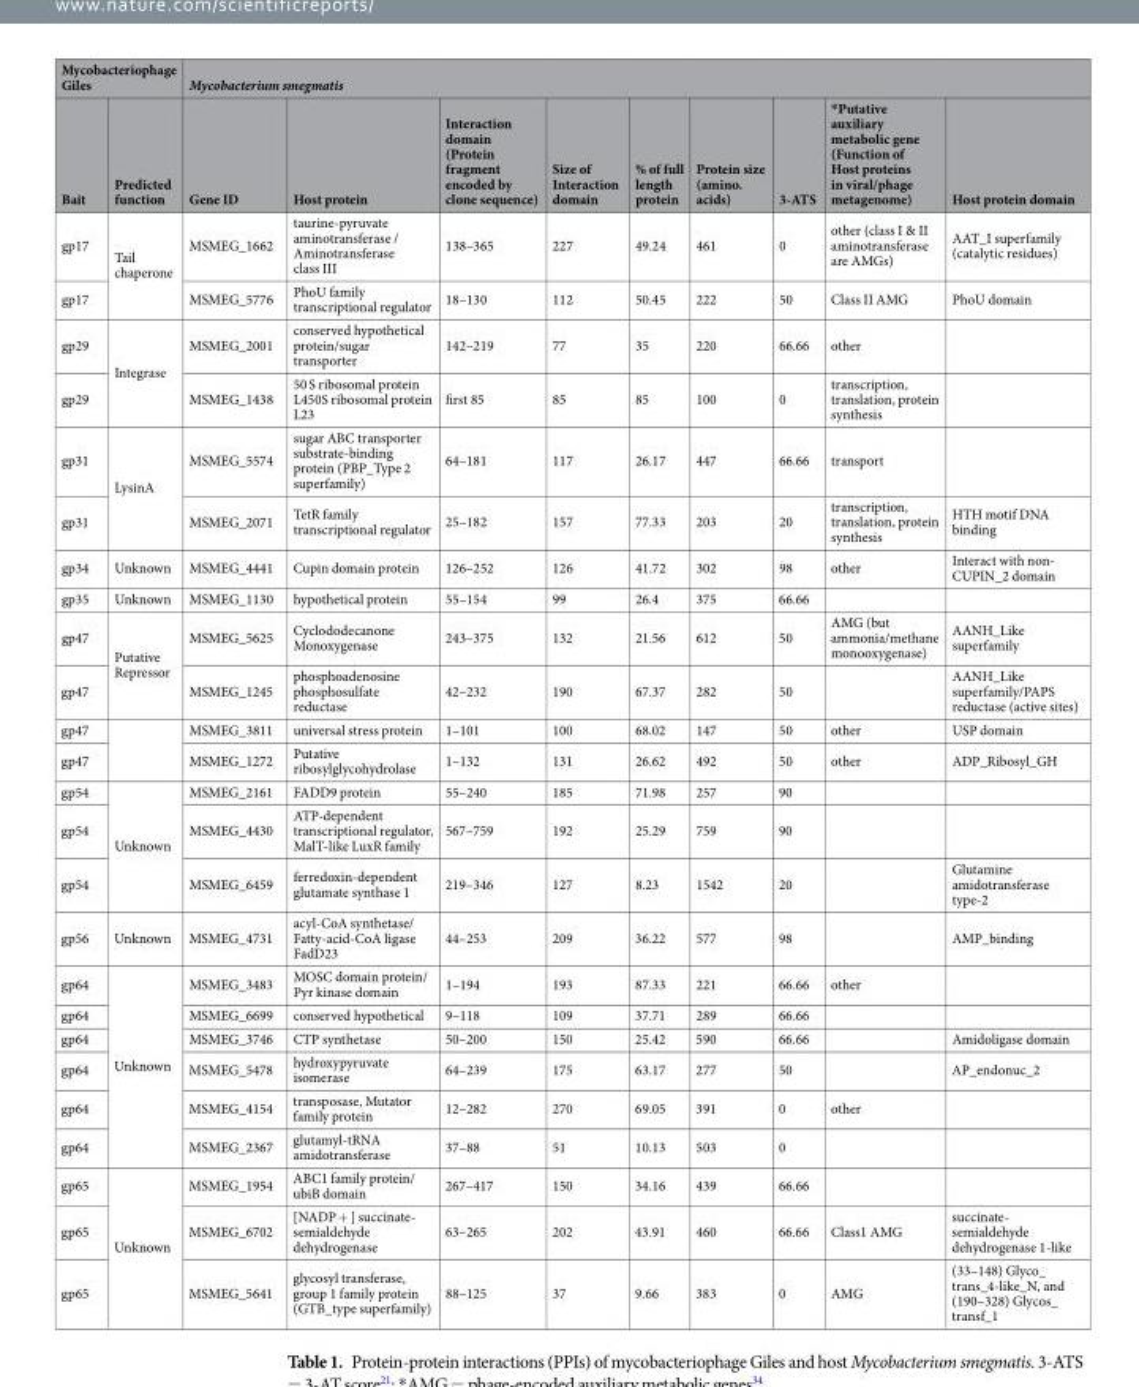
<table><thead><tr><td colspan="2">Mycobacteriophage Giles</td><td colspan="9">Mycobacterium smegmatis</td></tr><tr><td>Bait</td><td>Predicted function</td><td>Gene ID</td><td>Host protein</td><td>Interaction domain (Protein fragment encoded by clone sequence)</td><td>Size of Interaction domain</td><td>% of full length protein</td><td>Protein size (amino. acids)</td><td>3-ATS</td><td>*Putative auxiliary metabolic gene (Function of Host proteins in viral/phage metagenome)</td><td>Host protein domain</td></tr></thead><tbody><tr><td>gp17</td><td rowspan="2">Tail chaperone</td><td>MSMEG_1662</td><td>taurine-pyruvate aminotransferase / Aminotransferase class III</td><td>138–365</td><td>227</td><td>49.24</td><td>461</td><td>0</td><td>other (class I &amp; II aminotransferase are AMGs)</td><td>AAT_I superfamily (catalytic residues)</td></tr><tr><td>gp17</td><td>MSMEG_5776</td><td>PhoU family transcriptional regulator</td><td>18–130</td><td>112</td><td>50.45</td><td>222</td><td>50</td><td>Class II AMG</td><td>PhoU domain</td></tr><tr><td>gp29</td><td rowspan="2">Integrase</td><td>MSMEG_2001</td><td>conserved hypothetical protein/sugar transporter</td><td>142–219</td><td>77</td><td>35</td><td>220</td><td>66.66</td><td>other</td><td></td></tr><tr><td>gp29</td><td>MSMEG_1438</td><td>50 S ribosomal protein L450S ribosomal protein L23</td><td>first 85</td><td>85</td><td>85</td><td>100</td><td>0</td><td>transcription, translation, protein synthesis</td><td></td></tr><tr><td>gp31</td><td rowspan="2">LysinA</td><td>MSMEG_5574</td><td>sugar ABC transporter substrate-binding protein (PBP_Type 2 superfamily)</td><td>64–181</td><td>117</td><td>26.17</td><td>447</td><td>66.66</td><td>transport</td><td></td></tr><tr><td>gp31</td><td>MSMEG_2071</td><td>TetR family transcriptional regulator</td><td>25–182</td><td>157</td><td>77.33</td><td>203</td><td>20</td><td>transcription, translation, protein synthesis</td><td>HTH motif DNA binding</td></tr><tr><td>gp34</td><td>Unknown</td><td>MSMEG_4441</td><td>Cupin domain protein</td><td>126–252</td><td>126</td><td>41.72</td><td>302</td><td>98</td><td>other</td><td>Interact with non- CUPIN_2 domain</td></tr><tr><td>gp35</td><td>Unknown</td><td>MSMEG_1130</td><td>hypothetical protein</td><td>55–154</td><td>99</td><td>26.4</td><td>375</td><td>66.66</td><td></td><td></td></tr><tr><td>gp47</td><td rowspan="2">Putative Repressor</td><td>MSMEG_5625</td><td>Cyclododecanone Monoxygenase</td><td>243–375</td><td>132</td><td>21.56</td><td>612</td><td>50</td><td>AMG (but ammonia/methane monooxygenase)</td><td>AANH_Like superfamily</td></tr><tr><td>gp47</td><td>MSMEG_1245</td><td>phosphoadenosine phosphosulfate reductase</td><td>42–232</td><td>190</td><td>67.37</td><td>282</td><td>50</td><td></td><td>AANH_Like superfamily/PAPS reductase (active sites)</td></tr><tr><td>gp47</td><td rowspan="2"></td><td>MSMEG_3811</td><td>universal stress protein</td><td>1–101</td><td>100</td><td>68.02</td><td>147</td><td>50</td><td>other</td><td>USP domain</td></tr><tr><td>gp47</td><td>MSMEG_1272</td><td>Putative ribosylglycohydrolase</td><td>1–132</td><td>131</td><td>26.62</td><td>492</td><td>50</td><td>other</td><td>ADP_Ribosyl_GH</td></tr><tr><td>gp54</td><td rowspan="3">Unknown</td><td>MSMEG_2161</td><td>FADD9 protein</td><td>55–240</td><td>185</td><td>71.98</td><td>257</td><td>90</td><td></td><td></td></tr><tr><td>gp54</td><td>MSMEG_4430</td><td>ATP-dependent transcriptional regulator, MalT-like LuxR family</td><td>567–759</td><td>192</td><td>25.29</td><td>759</td><td>90</td><td></td><td></td></tr><tr><td>gp54</td><td>MSMEG_6459</td><td>ferredoxin-dependent glutamate synthase 1</td><td>219–346</td><td>127</td><td>8.23</td><td>1542</td><td>20</td><td></td><td>Glutamine amidotransferase type-2</td></tr><tr><td>gp56</td><td>Unknown</td><td>MSMEG_4731</td><td>acyl-CoA synthetase/ Fatty-acid-CoA ligase FadD23</td><td>44–253</td><td>209</td><td>36.22</td><td>577</td><td>98</td><td></td><td>AMP_binding</td></tr><tr><td>gp64</td><td rowspan="6">Unknown</td><td>MSMEG_3483</td><td>MOSC domain protein/ Pyr kinase domain</td><td>1–194</td><td>193</td><td>87.33</td><td>221</td><td>66.66</td><td>other</td><td></td></tr><tr><td>gp64</td><td>MSMEG_6699</td><td>conserved hypothetical</td><td>9–118</td><td>109</td><td>37.71</td><td>289</td><td>66.66</td><td></td><td></td></tr><tr><td>gp64</td><td>MSMEG_3746</td><td>CTP synthetase</td><td>50–200</td><td>150</td><td>25.42</td><td>590</td><td>66.66</td><td></td><td>Amidoligase domain</td></tr><tr><td>gp64</td><td>MSMEG_5478</td><td>hydroxypyruvate isomerase</td><td>64–239</td><td>175</td><td>63.17</td><td>277</td><td>50</td><td></td><td>AP_endonuc_2</td></tr><tr><td>gp64</td><td>MSMEG_4154</td><td>transposase, Mutator family protein</td><td>12–282</td><td>270</td><td>69.05</td><td>391</td><td>0</td><td>other</td><td></td></tr><tr><td>gp64</td><td>MSMEG_2367</td><td>glutamyl-tRNA amidotransferase</td><td>37–88</td><td>51</td><td>10.13</td><td>503</td><td>0</td><td></td><td></td></tr><tr><td>gp65</td><td rowspan="3">Unknown</td><td>MSMEG_1954</td><td>ABC1 family protein/ ubiB domain</td><td>267–417</td><td>150</td><td>34.16</td><td>439</td><td>66.66</td><td></td><td></td></tr><tr><td>gp65</td><td>MSMEG_6702</td><td>[NADP + ] succinate- semialdehyde dehydrogenase</td><td>63–265</td><td>202</td><td>43.91</td><td>460</td><td>66.66</td><td>Class1 AMG</td><td>succinate- semialdehyde dehydrogenase 1-like</td></tr><tr><td>gp65</td><td>MSMEG_5641</td><td>glycosyl transferase, group 1 family protein (GTB_type superfamily)</td><td>88–125</td><td>37</td><td>9.66</td><td>383</td><td>0</td><td>AMG</td><td>(33–148) Glyco_ trans_4-like_N, and (190–328) Glycos_ transf_1</td></tr></tbody></table>